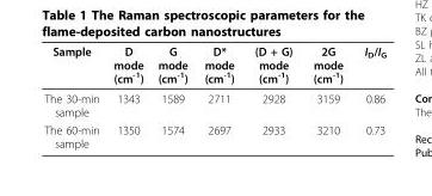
<table><thead><tr><td>Sample</td><td>D mode (cm<sup>-1</sup>)</td><td>G mode (cm<sup>-1</sup>)</td><td>D* mode (cm<sup>-1</sup>)</td><td>(D + G) mode (cm<sup>-1</sup>)</td><td>2G mode (cm<sup>-1</sup>)</td><td>I<sub>D</sub>/I<sub>G</sub></td></tr></thead><tbody><tr><td>The 30-min sample</td><td>1343</td><td>1589</td><td>2711</td><td>2928</td><td>3159</td><td>0.86</td></tr><tr><td>The 60-min sample</td><td>1350</td><td>1574</td><td>2697</td><td>2933</td><td>3210</td><td>0.73</td></tr></tbody></table>